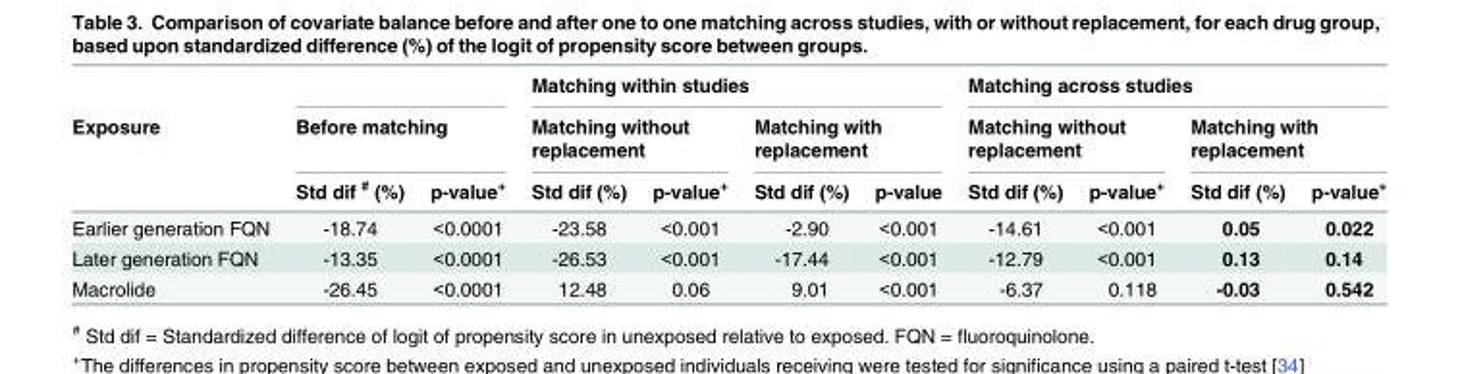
<table><thead><tr><td rowspan="3">Exposure</td><td></td><td></td><td colspan="4">Matching within studies</td><td colspan="4">Matching across studies</td></tr><tr><td colspan="2">Before matching</td><td colspan="2">Matching without replacement</td><td colspan="2">Matching with replacement</td><td colspan="2">Matching without replacement</td><td colspan="2">Matching with replacement</td></tr><tr><td>Std dif <sup>#</sup> (%)</td><td>p-value<sup>+</sup></td><td>Std dif (%)</td><td>p-value<sup>+</sup></td><td>Std dif (%)</td><td>p-value</td><td>Std dif (%)</td><td>p-value<sup>+</sup></td><td>Std dif (%)</td><td>p-value<sup>+</sup></td></tr></thead><tbody><tr><td>Earlier generation FQN</td><td>-18.74</td><td>&lt;0.0001</td><td>-23.58</td><td>&lt;0.001</td><td>-2.90</td><td>&lt;0.001</td><td>-14.61</td><td>&lt;0.001</td><td>0.05</td><td>0.022</td></tr><tr><td>Later generation FQN</td><td>-13.35</td><td>&lt;0.0001</td><td>-26.53</td><td>&lt;0.001</td><td>-17.44</td><td>&lt;0.001</td><td>-12.79</td><td>&lt;0.001</td><td>0.13</td><td>0.14</td></tr><tr><td>Macrolide</td><td>-26.45</td><td>&lt;0.0001</td><td>12.48</td><td>0.06</td><td>9.01</td><td>&lt;0.001</td><td>-6.37</td><td>0.118</td><td>-0.03</td><td>0.542</td></tr></tbody></table>